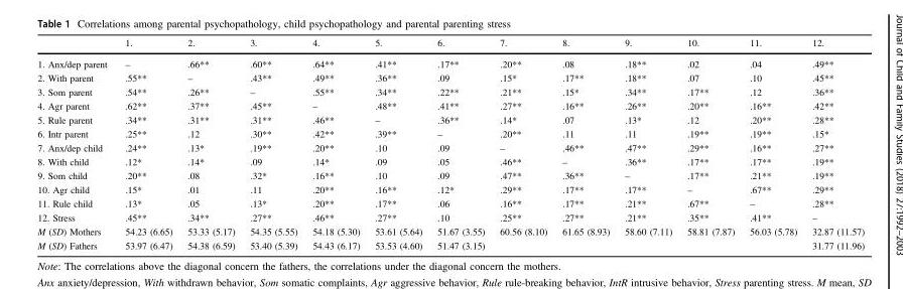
<table><thead><tr><td></td><td>1.</td><td>2.</td><td>3.</td><td>4.</td><td>5.</td><td>6.</td><td>7.</td><td>8.</td><td>9.</td><td>10.</td><td>11.</td><td>12.</td></tr></thead><tbody><tr><td>1. Anx/dep parent</td><td>–</td><td>.66**</td><td>.60**</td><td>.64**</td><td>.41**</td><td>.17**</td><td>.20**</td><td>.08</td><td>.18**</td><td>.02</td><td>.04</td><td>.49**</td></tr><tr><td>2. With parent</td><td>.55**</td><td>–</td><td>.43**</td><td>.49**</td><td>.36**</td><td>.09</td><td>.15*</td><td>.17**</td><td>.18**</td><td>.07</td><td>.10</td><td>.45**</td></tr><tr><td>3. Som parent</td><td>.54**</td><td>.26**</td><td>–</td><td>.55**</td><td>.34**</td><td>.22**</td><td>.21**</td><td>.15*</td><td>.34**</td><td>.17**</td><td>.12</td><td>.36**</td></tr><tr><td>4. Agr parent</td><td>.62**</td><td>.37**</td><td>.45**</td><td>–</td><td>.48**</td><td>.41**</td><td>.27**</td><td>.16**</td><td>.26**</td><td>.20**</td><td>.16**</td><td>.42**</td></tr><tr><td>5. Rule parent</td><td>.34**</td><td>.31**</td><td>.31**</td><td>.46**</td><td>–</td><td>.36**</td><td>.14*</td><td>.07</td><td>.13*</td><td>.12</td><td>.20**</td><td>.28**</td></tr><tr><td>6. Intr parent</td><td>.25**</td><td>.12</td><td>.30**</td><td>.42**</td><td>.39**</td><td>–</td><td>.20**</td><td>.11</td><td>.11</td><td>.19**</td><td>.19**</td><td>.15*</td></tr><tr><td>7. Anx/dep child</td><td>.24**</td><td>.13*</td><td>.19**</td><td>.20**</td><td>.10</td><td>.09</td><td>–</td><td>.46**</td><td>.47**</td><td>.29**</td><td>.16**</td><td>.27**</td></tr><tr><td>8. With child</td><td>.12*</td><td>.14*</td><td>.09</td><td>.14*</td><td>.09</td><td>.05</td><td>.46**</td><td>–</td><td>.36**</td><td>.17**</td><td>.17**</td><td>.19**</td></tr><tr><td>9. Som child</td><td>.20**</td><td>.08</td><td>.32*</td><td>.16**</td><td>.10</td><td>.09</td><td>.47**</td><td>.36**</td><td>–</td><td>.17**</td><td>.21**</td><td>.19**</td></tr><tr><td>10. Agr child</td><td>.15*</td><td>.01</td><td>.11</td><td>.20**</td><td>.16**</td><td>.12*</td><td>.29**</td><td>.17**</td><td>.17**</td><td>–</td><td>.67**</td><td>.29**</td></tr><tr><td>11. Rule child</td><td>.13*</td><td>.05</td><td>.13*</td><td>.20**</td><td>.17**</td><td>.06</td><td>.16**</td><td>.17**</td><td>.21**</td><td>.67**</td><td>–</td><td>.28**</td></tr><tr><td>12. Stress</td><td>.45**</td><td>.34**</td><td>.27**</td><td>.46**</td><td>.27**</td><td>.10</td><td>.25**</td><td>.27**</td><td>.21**</td><td>.35**</td><td>.41**</td><td>–</td></tr><tr><td>M (SD) Mothers</td><td>54.23 (6.65)</td><td>53.33 (5.17)</td><td>54.35 (5.55)</td><td>54.18 (5.30)</td><td>53.61 (5.64)</td><td>51.67 (3.55)</td><td>60.56 (8.10)</td><td>61.65 (8.93)</td><td>58.60 (7.11)</td><td>58.81 (7.87)</td><td>56.03 (5.78)</td><td>32.87 (11.57)</td></tr><tr><td>M (SD) Fathers</td><td>53.97 (6.47)</td><td>54.38 (6.59)</td><td>53.40 (5.39)</td><td>54.43 (6.17)</td><td>53.53 (4.60)</td><td>51.47 (3.15)</td><td></td><td></td><td></td><td></td><td></td><td>31.77 (11.96)</td></tr></tbody></table>